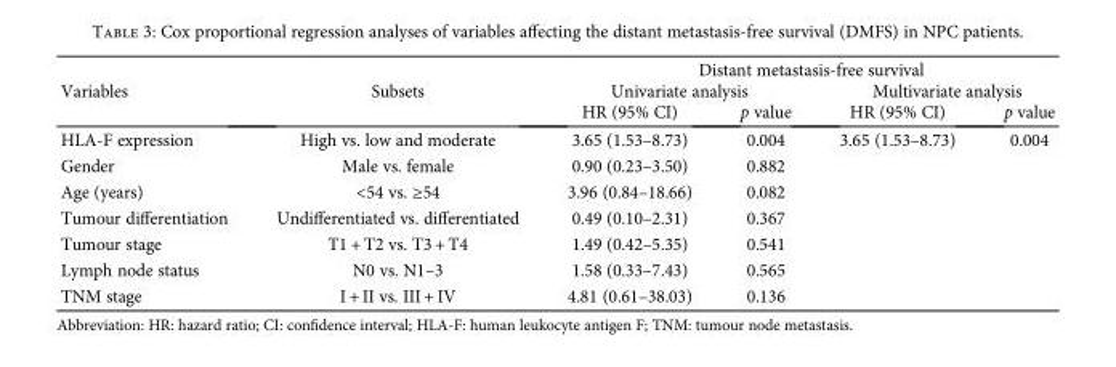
<table><thead><tr><td rowspan="3">Variables</td><td rowspan="3">Subsets</td><td colspan="4">Distant metastasis-free survival</td></tr><tr><td colspan="2">Univariate analysis</td><td colspan="2">Multivariate analysis</td></tr><tr><td>HR (95% CI)</td><td>p value</td><td>HR (95% CI)</td><td>p value</td></tr></thead><tbody><tr><td>HLA-F expression</td><td>High vs. low and moderate</td><td>3.65 (1.53–8.73)</td><td>0.004</td><td>3.65 (1.53–8.73)</td><td>0.004</td></tr><tr><td>Gender</td><td>Male vs. female</td><td>0.90 (0.23–3.50)</td><td>0.882</td><td></td><td></td></tr><tr><td>Age (years)</td><td>&lt;54 vs. ≥54</td><td>3.96 (0.84–18.66)</td><td>0.082</td><td></td><td></td></tr><tr><td>Tumour differentiation</td><td>Undifferentiated vs. differentiated</td><td>0.49 (0.10–2.31)</td><td>0.367</td><td></td><td></td></tr><tr><td>Tumour stage</td><td>T1 + T2 vs. T3 + T4</td><td>1.49 (0.42–5.35)</td><td>0.541</td><td></td><td></td></tr><tr><td>Lymph node status</td><td>N0 vs. N1–3</td><td>1.58 (0.33–7.43)</td><td>0.565</td><td></td><td></td></tr><tr><td>TNM stage</td><td>I + II vs. III + IV</td><td>4.81 (0.61–38.03)</td><td>0.136</td><td></td><td></td></tr></tbody></table>